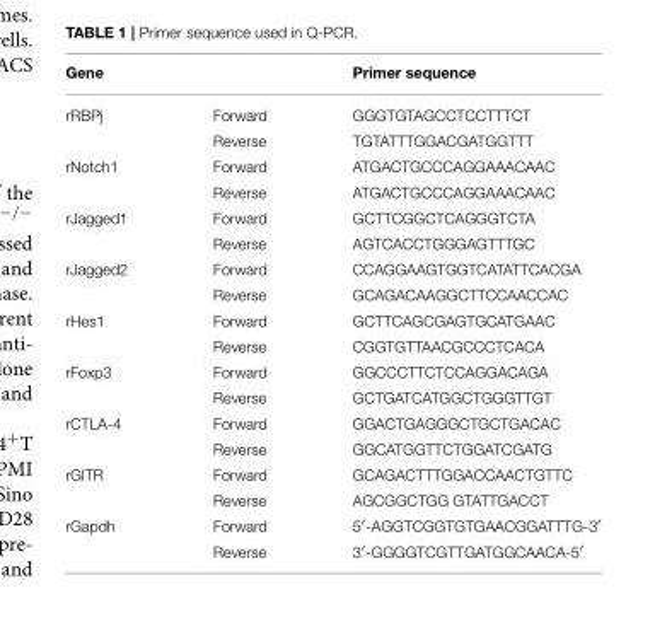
<table><thead><tr><td>Gene</td><td></td><td>Primer sequence</td></tr></thead><tbody><tr><td rowspan="2">rRBPj</td><td>Forward</td><td>GGGTGTAGCCTCCTTTCT</td></tr><tr><td>Reverse</td><td>TGTATTTGGACGATGGTTT</td></tr><tr><td rowspan="2">rNotch1</td><td>Forward</td><td>ATGACTGCCCAGGAAACAAC</td></tr><tr><td>Reverse</td><td>ATGACTGCCCAGGAAACAAC</td></tr><tr><td rowspan="2">rJagged1</td><td>Forward</td><td>GCTTCGGCTCAGGGTCTA</td></tr><tr><td>Reverse</td><td>AGTCACCTGGGAGTTTGC</td></tr><tr><td rowspan="2">rJagged2</td><td>Forward</td><td>CCAGGAAGTGGTCATATTCACGA</td></tr><tr><td>Reverse</td><td>GCAGACAAGGCTTCCAACCAC</td></tr><tr><td rowspan="2">rHes1</td><td>Forward</td><td>GCTTCAGCGAGTGCATGAAC</td></tr><tr><td>Reverse</td><td>CGGTGTTAACGCCCTCACA</td></tr><tr><td rowspan="2">rFoxp3</td><td>Forward</td><td>GGCCCTTCTCCAGGACAGA</td></tr><tr><td>Reverse</td><td>GCTGATCATGGCTGGGTTGT</td></tr><tr><td rowspan="2">rCTLA-4</td><td>Forward</td><td>GGACTGAGGGCTGCTGACAC</td></tr><tr><td>Reverse</td><td>GGCATGGTTCTGGATCGATG</td></tr><tr><td rowspan="2">rGITR</td><td>Forward</td><td>GCAGACTTTGGACCAACTGTTC</td></tr><tr><td>Reverse</td><td>AGCGGCTGG GTATTGACCT</td></tr><tr><td rowspan="2">rGapdh</td><td>Forward</td><td>5′-AGGTCGGTGTGAACGGATTTG-3′</td></tr><tr><td>Reverse</td><td>3′-GGGGTCGTTGATGGCAACA-5′</td></tr></tbody></table>